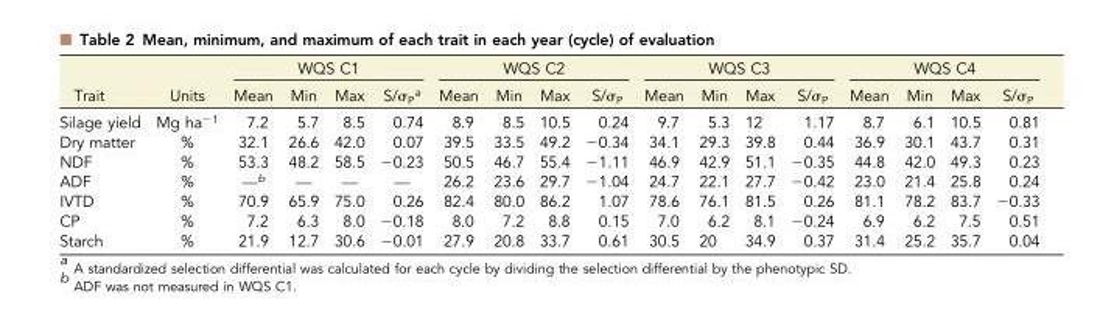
<table><thead><tr><td rowspan="2">Trait</td><td rowspan="2">Units</td><td colspan="4">WQS C1</td><td colspan="4">WQS C2</td><td colspan="4">WQS C3</td><td colspan="4">WQS C4</td></tr><tr><td>Mean</td><td>Min</td><td>Max</td><td>S/σ<sub>P</sub><sup>a</sup></td><td>Mean</td><td>Min</td><td>Max</td><td>S/σ<sub>P</sub></td><td>Mean</td><td>Min</td><td>Max</td><td>S/σ<sub>P</sub></td><td>Mean</td><td>Min</td><td>Max</td><td>S/σ<sub>P</sub></td></tr></thead><tbody><tr><td>Silage yield</td><td>Mg ha<sup>−1</sup></td><td>7.2</td><td>5.7</td><td>8.5</td><td>0.74</td><td>8.9</td><td>8.5</td><td>10.5</td><td>0.24</td><td>9.7</td><td>5.3</td><td>12</td><td>1.17</td><td>8.7</td><td>6.1</td><td>10.5</td><td>0.81</td></tr><tr><td>Dry matter</td><td>%</td><td>32.1</td><td>26.6</td><td>42.0</td><td>0.07</td><td>39.5</td><td>33.5</td><td>49.2</td><td>−0.34</td><td>34.1</td><td>29.3</td><td>39.8</td><td>0.44</td><td>36.9</td><td>30.1</td><td>43.7</td><td>0.31</td></tr><tr><td>NDF</td><td>%</td><td>53.3</td><td>48.2</td><td>58.5</td><td>−0.23</td><td>50.5</td><td>46.7</td><td>55.4</td><td>−1.11</td><td>46.9</td><td>42.9</td><td>51.1</td><td>−0.35</td><td>44.8</td><td>42.0</td><td>49.3</td><td>0.23</td></tr><tr><td>ADF</td><td>%</td><td>—<sup>b</sup></td><td>—</td><td>—</td><td>—</td><td>26.2</td><td>23.6</td><td>29.7</td><td>−1.04</td><td>24.7</td><td>22.1</td><td>27.7</td><td>−0.42</td><td>23.0</td><td>21.4</td><td>25.8</td><td>0.24</td></tr><tr><td>IVTD</td><td>%</td><td>70.9</td><td>65.9</td><td>75.0</td><td>0.26</td><td>82.4</td><td>80.0</td><td>86.2</td><td>1.07</td><td>78.6</td><td>76.1</td><td>81.5</td><td>0.26</td><td>81.1</td><td>78.2</td><td>83.7</td><td>−0.33</td></tr><tr><td>CP</td><td>%</td><td>7.2</td><td>6.3</td><td>8.0</td><td>−0.18</td><td>8.0</td><td>7.2</td><td>8.8</td><td>0.15</td><td>7.0</td><td>6.2</td><td>8.1</td><td>−0.24</td><td>6.9</td><td>6.2</td><td>7.5</td><td>0.51</td></tr><tr><td>Starch</td><td>%</td><td>21.9</td><td>12.7</td><td>30.6</td><td>−0.01</td><td>27.9</td><td>20.8</td><td>33.7</td><td>0.61</td><td>30.5</td><td>20</td><td>34.9</td><td>0.37</td><td>31.4</td><td>25.2</td><td>35.7</td><td>0.04</td></tr></tbody></table>